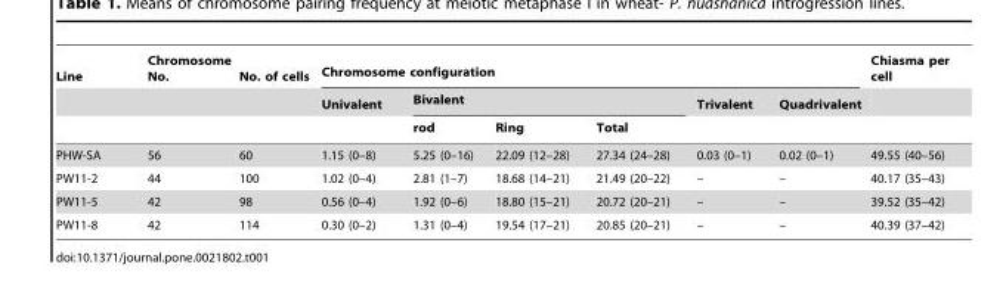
<table><thead><tr><td rowspan="3">Line</td><td rowspan="3">Chromosome No.</td><td rowspan="3">No. of cells</td><td colspan="6">Chromosome configuration</td><td rowspan="3">Chiasma per cell</td></tr><tr><td rowspan="2">Univalent</td><td colspan="3">Bivalent</td><td rowspan="2">Trivalent</td><td rowspan="2">Quadrivalent</td></tr><tr><td>rod</td><td>Ring</td><td>Total</td></tr></thead><tbody><tr><td>PHW-SA</td><td>56</td><td>60</td><td>1.15 (0–8)</td><td>5.25 (0–16)</td><td>22.09 (12–28)</td><td>27.34 (24–28)</td><td>0.03 (0–1)</td><td>0.02 (0–1)</td><td>49.55 (40–56)</td></tr><tr><td>PW11-2</td><td>44</td><td>100</td><td>1.02 (0–4)</td><td>2.81 (1–7)</td><td>18.68 (14–21)</td><td>21.49 (20–22)</td><td>–</td><td>–</td><td>40.17 (35–43)</td></tr><tr><td>PW11-5</td><td>42</td><td>98</td><td>0.56 (0–4)</td><td>1.92 (0–6)</td><td>18.80 (15–21)</td><td>20.72 (20–21)</td><td>–</td><td>–</td><td>39.52 (35–42)</td></tr><tr><td>PW11-8</td><td>42</td><td>114</td><td>0.30 (0–2)</td><td>1.31 (0–4)</td><td>19.54 (17–21)</td><td>20.85 (20–21)</td><td>–</td><td>–</td><td>40.39 (37–42)</td></tr></tbody></table>